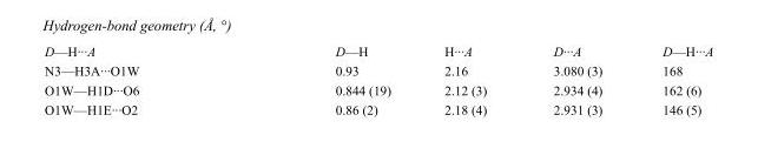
<table><tbody><tr><td>D—H···A</td><td>D—H</td><td>H···A</td><td>D···A</td><td>D—H···A</td></tr><tr><td>N3—H3A···O1W</td><td>0.93</td><td>2.16</td><td>3.080 (3)</td><td>168</td></tr><tr><td>O1W—H1D···O6</td><td>0.844 (19)</td><td>2.12 (3)</td><td>2.934 (4)</td><td>162 (6)</td></tr><tr><td>O1W—H1E···O2</td><td>0.86 (2)</td><td>2.18 (4)</td><td>2.931 (3)</td><td>146 (5)</td></tr></tbody></table>